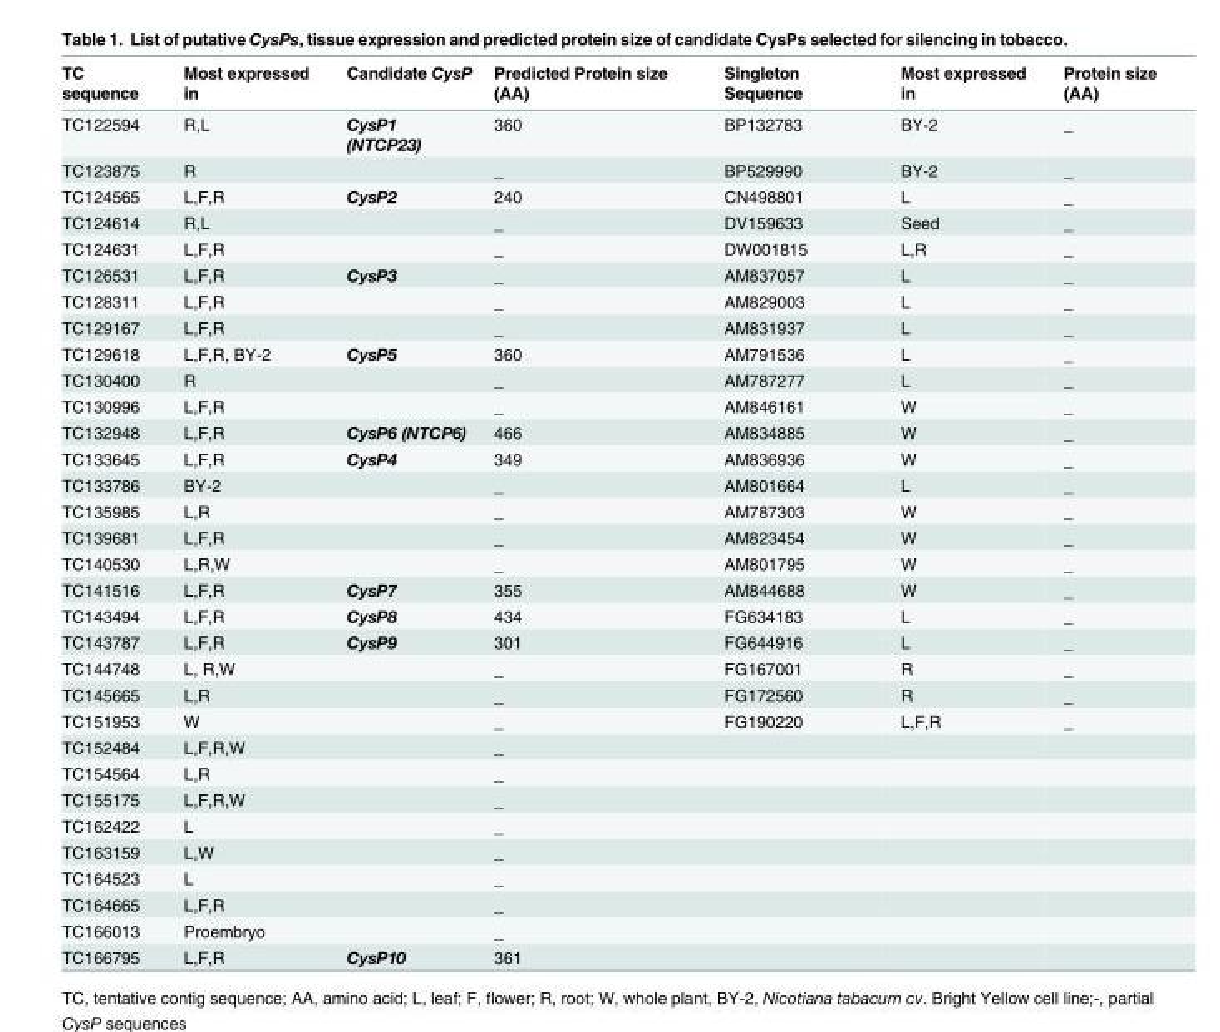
<table><thead><tr><td>TC sequence</td><td>Most expressed in</td><td>Candidate CysP</td><td>Predicted Protein size (AA)</td><td>Singleton Sequence</td><td>Most expressed in</td><td>Protein size (AA)</td></tr></thead><tbody><tr><td>TC122594</td><td>R,L</td><td>CysP1 (NTCP23)</td><td>360</td><td>BP132783</td><td>BY-2</td><td>_</td></tr><tr><td>TC123875</td><td>R</td><td></td><td>_</td><td>BP529990</td><td>BY-2</td><td>_</td></tr><tr><td>TC124565</td><td>L,F,R</td><td>CysP2</td><td>240</td><td>CN498801</td><td>L</td><td>_</td></tr><tr><td>TC124614</td><td>R,L</td><td></td><td>_</td><td>DV159633</td><td>Seed</td><td>_</td></tr><tr><td>TC124631</td><td>L,F,R</td><td></td><td>_</td><td>DW001815</td><td>L,R</td><td>_</td></tr><tr><td>TC126531</td><td>L,F,R</td><td>CysP3</td><td>_</td><td>AM837057</td><td>L</td><td>_</td></tr><tr><td>TC128311</td><td>L,F,R</td><td></td><td>_</td><td>AM829003</td><td>L</td><td>_</td></tr><tr><td>TC129167</td><td>L,F,R</td><td></td><td>_</td><td>AM831937</td><td>L</td><td>_</td></tr><tr><td>TC129618</td><td>L,F,R, BY-2</td><td>CysP5</td><td>360</td><td>AM791536</td><td>L</td><td>_</td></tr><tr><td>TC130400</td><td>R</td><td></td><td>_</td><td>AM787277</td><td>L</td><td>_</td></tr><tr><td>TC130996</td><td>L,F,R</td><td></td><td>_</td><td>AM846161</td><td>W</td><td>_</td></tr><tr><td>TC132948</td><td>L,F,R</td><td>CysP6 (NTCP6)</td><td>466</td><td>AM834885</td><td>W</td><td>_</td></tr><tr><td>TC133645</td><td>L,F,R</td><td>CysP4</td><td>349</td><td>AM836936</td><td>W</td><td>_</td></tr><tr><td>TC133786</td><td>BY-2</td><td></td><td>_</td><td>AM801664</td><td>L</td><td>_</td></tr><tr><td>TC135985</td><td>L,R</td><td></td><td>_</td><td>AM787303</td><td>W</td><td>_</td></tr><tr><td>TC139681</td><td>L,F,R</td><td></td><td>_</td><td>AM823454</td><td>W</td><td>_</td></tr><tr><td>TC140530</td><td>L,R,W</td><td></td><td>_</td><td>AM801795</td><td>W</td><td>_</td></tr><tr><td>TC141516</td><td>L,F,R</td><td>CysP7</td><td>355</td><td>AM844688</td><td>W</td><td>_</td></tr><tr><td>TC143494</td><td>L,F,R</td><td>CysP8</td><td>434</td><td>FG634183</td><td>L</td><td>_</td></tr><tr><td>TC143787</td><td>L,F,R</td><td>CysP9</td><td>301</td><td>FG644916</td><td>L</td><td>_</td></tr><tr><td>TC144748</td><td>L, R,W</td><td></td><td>_</td><td>FG167001</td><td>R</td><td>_</td></tr><tr><td>TC145665</td><td>L,R</td><td></td><td>_</td><td>FG172560</td><td>R</td><td>_</td></tr><tr><td>TC151953</td><td>W</td><td></td><td>_</td><td>FG190220</td><td>L,F,R</td><td>_</td></tr><tr><td>TC152484</td><td>L,F,R,W</td><td></td><td>_</td><td></td><td></td><td></td></tr><tr><td>TC154564</td><td>L,R</td><td></td><td>_</td><td></td><td></td><td></td></tr><tr><td>TC155175</td><td>L,F,R,W</td><td></td><td>_</td><td></td><td></td><td></td></tr><tr><td>TC162422</td><td>L</td><td></td><td>_</td><td></td><td></td><td></td></tr><tr><td>TC163159</td><td>L,W</td><td></td><td>_</td><td></td><td></td><td></td></tr><tr><td>TC164523</td><td>L</td><td></td><td>_</td><td></td><td></td><td></td></tr><tr><td>TC164665</td><td>L,F,R</td><td></td><td>_</td><td></td><td></td><td></td></tr><tr><td>TC166013</td><td>Proembryo</td><td></td><td>_</td><td></td><td></td><td></td></tr><tr><td>TC166795</td><td>L,F,R</td><td>CysP10</td><td>361</td><td></td><td></td><td></td></tr></tbody></table>